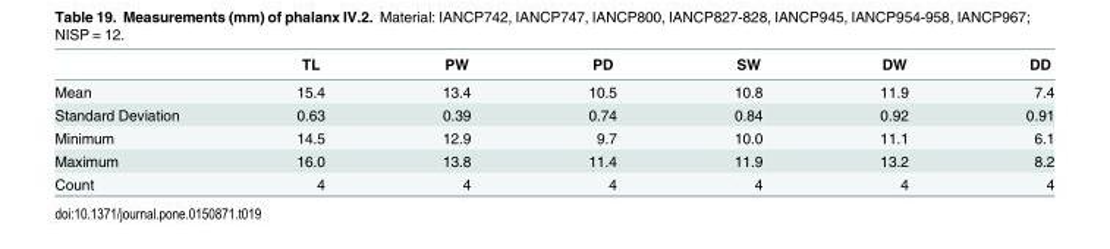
<table><thead><tr><td></td><td>TL</td><td>PW</td><td>PD</td><td>SW</td><td>DW</td><td>DD</td></tr></thead><tbody><tr><td>Mean</td><td>15.4</td><td>13.4</td><td>10.5</td><td>10.8</td><td>11.9</td><td>7.4</td></tr><tr><td>Standard Deviation</td><td>0.63</td><td>0.39</td><td>0.74</td><td>0.84</td><td>0.92</td><td>0.91</td></tr><tr><td>Minimum</td><td>14.5</td><td>12.9</td><td>9.7</td><td>10.0</td><td>11.1</td><td>6.1</td></tr><tr><td>Maximum</td><td>16.0</td><td>13.8</td><td>11.4</td><td>11.9</td><td>13.2</td><td>8.2</td></tr><tr><td>Count</td><td>4</td><td>4</td><td>4</td><td>4</td><td>4</td><td>4</td></tr></tbody></table>